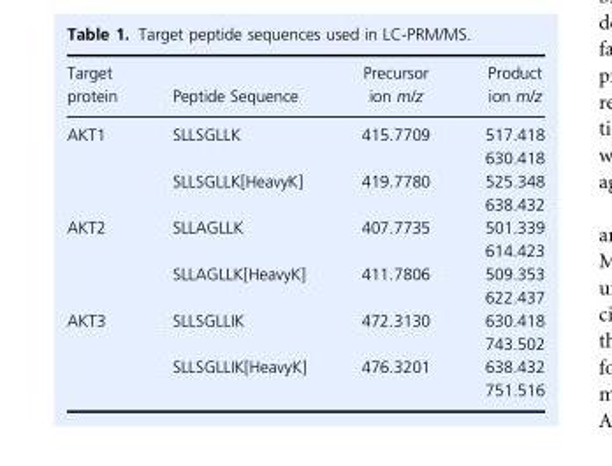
<table><thead><tr><td>Target protein</td><td>Peptide Sequence</td><td>Precursor ion m/z</td><td>Product ion m/z</td></tr></thead><tbody><tr><td rowspan="4">AKT1</td><td rowspan="2">SLLSGLLK</td><td rowspan="2">415.7709</td><td>517.418</td></tr><tr><td>630.418</td></tr><tr><td rowspan="2">SLLSGLLK[HeavyK]</td><td rowspan="2">419.7780</td><td>525.348</td></tr><tr><td>638.432</td></tr><tr><td rowspan="4">AKT2</td><td rowspan="2">SLLAGLLK</td><td rowspan="2">407.7735</td><td>501.339</td></tr><tr><td>614.423</td></tr><tr><td rowspan="2">SLLAGLLK[HeavyK]</td><td rowspan="2">411.7806</td><td>509.353</td></tr><tr><td>622.437</td></tr><tr><td rowspan="4">AKT3</td><td rowspan="2">SLLSGLLIK</td><td rowspan="2">472.3130</td><td>630.418</td></tr><tr><td>743.502</td></tr><tr><td rowspan="2">SLLSGLLIK[HeavyK]</td><td rowspan="2">476.3201</td><td>638.432</td></tr><tr><td>751.516</td></tr></tbody></table>